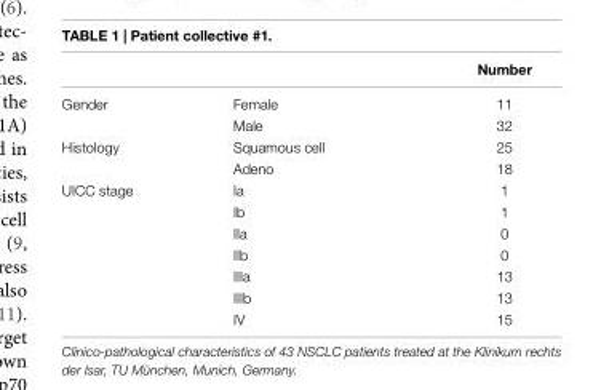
<table><thead><tr><td></td><td></td><td>number</td></tr></thead><tbody><tr><td rowspan="2">Gender</td><td>Female</td><td>11</td></tr><tr><td>Male</td><td>32</td></tr><tr><td rowspan="2">Histology</td><td>Squamous cell</td><td>25</td></tr><tr><td>Adeno</td><td>18</td></tr><tr><td rowspan="7">UICC stage</td><td>Ia</td><td>1</td></tr><tr><td>Ib</td><td>1</td></tr><tr><td>IIa</td><td>0</td></tr><tr><td>IIb</td><td>0</td></tr><tr><td>IIIa</td><td>13</td></tr><tr><td>IIIb</td><td>13</td></tr><tr><td>IV</td><td>15</td></tr></tbody></table>